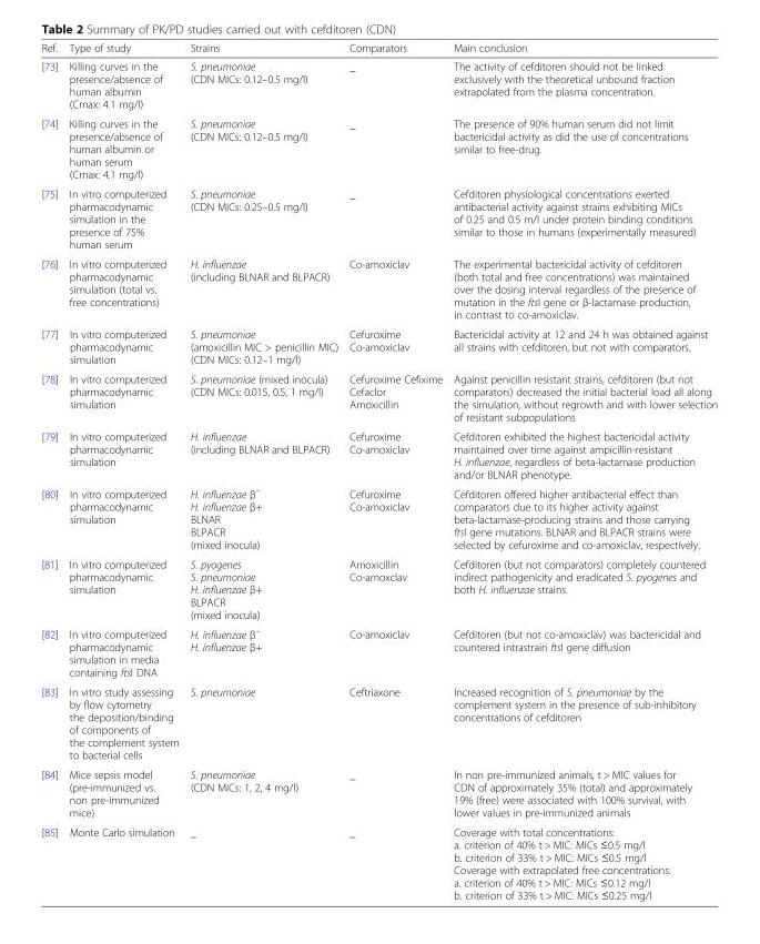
<table><thead><tr><td>Ref.</td><td>Type of study</td><td>Strains</td><td>Comparators</td><td>Main conclusion</td></tr></thead><tbody><tr><td>[73]</td><td>Killing curves in the presence/absence of human albumin (Cmax: 4.1 mg/l)</td><td>S. pneumoniae (CDN MICs: 0.12–0.5 mg/l)</td><td>_</td><td>The activity of cefditoren should not be linked exclusively with the theoretical unbound fraction extrapolated from the plasma concentration.</td></tr><tr><td>[74]</td><td>Killing curves in the presence/absence of human albumin or human serum (Cmax: 4.1 mg/l)</td><td>S. pneumoniae (CDN MICs: 0.12–0.5 mg/l)</td><td>_</td><td>The presence of 90% human serum did not limit bactericidal activity as did the use of concentrations similar to free-drug.</td></tr><tr><td>[75]</td><td>In vitro computerized pharmacodynamic simulation in the presence of 75% human serum</td><td>S. pneumoniae (CDN MICs: 0.25–0.5 mg/l)</td><td>_</td><td>Cefditoren physiological concentrations exerted antibacterial activity against strains exhibiting MICs of 0.25 and 0.5 m/l under protein binding conditions similar to those in humans (experimentally measured)</td></tr><tr><td>[76]</td><td>In vitro computerized pharmacodynamic simulation (total vs. free concentrations)</td><td>H. influenzae (including BLNAR and BLPACR)</td><td>Co-amoxiclav</td><td>The experimental bactericidal activity of cefditoren (both total and free concentrations) was maintained over the dosing interval regardless of the presence of mutation in the ftsI gene or β-lactamase production, in contrast to co-amoxiclav.</td></tr><tr><td>[77]</td><td>In vitro computerized pharmacodynamic simulation</td><td>S. pneumoniae (amoxicillin MIC &gt; penicillin MIC) (CDN MICs: 0.12–1 mg/l)</td><td>Cefuroxime Co-amoxiclav</td><td>Bactericidal activity at 12 and 24 h was obtained against all strains with cefditoren, but not with comparators.</td></tr><tr><td>[78]</td><td>In vitro computerized pharmacodynamic simulation</td><td>S. pneumoniae (mixed inocula) (CDN MICs: 0.015, 0.5, 1 mg/l)</td><td>Cefuroxime Cefixime Cefaclor Amoxicillin</td><td>Against penicillin resistant strains, cefditoren (but not comparators) decreased the initial bacterial load all along the simulation, without regrowth and with lower selection of resistant subpopulations</td></tr><tr><td>[79]</td><td>In vitro computerized pharmacodynamic simulation</td><td>H. influenzae (including BLNAR and BLPACR)</td><td>Cefuroxime Co-amoxiclav</td><td>Cefditoren exhibited the highest bactericidal activity maintained over time against ampicillin-resistant H. influenzae, regardless of beta-lactamase production and/or BLNAR phenotype.</td></tr><tr><td>[80]</td><td>In vitro computerized pharmacodynamic simulation</td><td>H. influenzae β<sup>−</sup> H. influenzae β+ BLNAR BLPACR (mixed inocula)</td><td>Cefuroxime Co-amoxiclav</td><td>Cefditoren offered higher antibacterial effect than comparators due to its higher activity against beta-lactamase-producing strains and those carrying ftsI gene mutations. BLNAR and BLPACR strains were selected by cefuroxime and co-amoxiclav, respectively.</td></tr><tr><td>[81]</td><td>In vitro computerized pharmacodynamic simulation</td><td>S. pyogenes S. pneumoniae H. influenzae β+ BLPACR (mixed inocula)</td><td>Amoxicillin Co-amoxclav</td><td>Cefditoren (but not comparators) completely countered indirect pathogenicity and eradicated S. pyogenes and both H. influenzae strains.</td></tr><tr><td>[82]</td><td>In vitro computerized pharmacodynamic simulation in media containing ftsI DNA</td><td>H. influenzae β<sup>−</sup> H. influenzae β+</td><td>Co-amoxiclav</td><td>Cefditoren (but not co-amoxiclav) was bactericidal and countered intrastrain ftsI gene diffusion</td></tr><tr><td>[83]</td><td>In vitro study assessing by flow cytometry the deposition/binding of components of the complement system to bacterial cells</td><td>S. pneumoniae</td><td>Ceftriaxone</td><td>Increased recognition of S. pneumoniae by the complement system in the presence of sub-inhibitory concentrations of cefditoren</td></tr><tr><td>[84]</td><td>Mice sepsis model (pre-immunized vs. non pre-immunized mice)</td><td>S. pneumoniae (CDN MICs: 1, 2, 4 mg/l)</td><td>_</td><td>In non pre-immunized animals, t &gt; MIC values for CDN of approximately 35% (total) and approximately 19% (free) were associated with 100% survival, with lower values in pre-immunized animals</td></tr><tr><td>[85]</td><td>Monte Carlo simulation</td><td>_</td><td>_</td><td>Coverage with total concentrations: a. criterion of 40% t &gt; MIC: MICs ≤0.5 mg/l b. criterion of 33% t &gt; MIC: MICs ≤0.5 mg/l Coverage with extrapolated free concentrations: a. criterion of 40% t &gt; MIC: MICs ≤0.12 mg/l b. criterion of 33% t &gt; MIC: MICs ≤0.25 mg/l</td></tr></tbody></table>